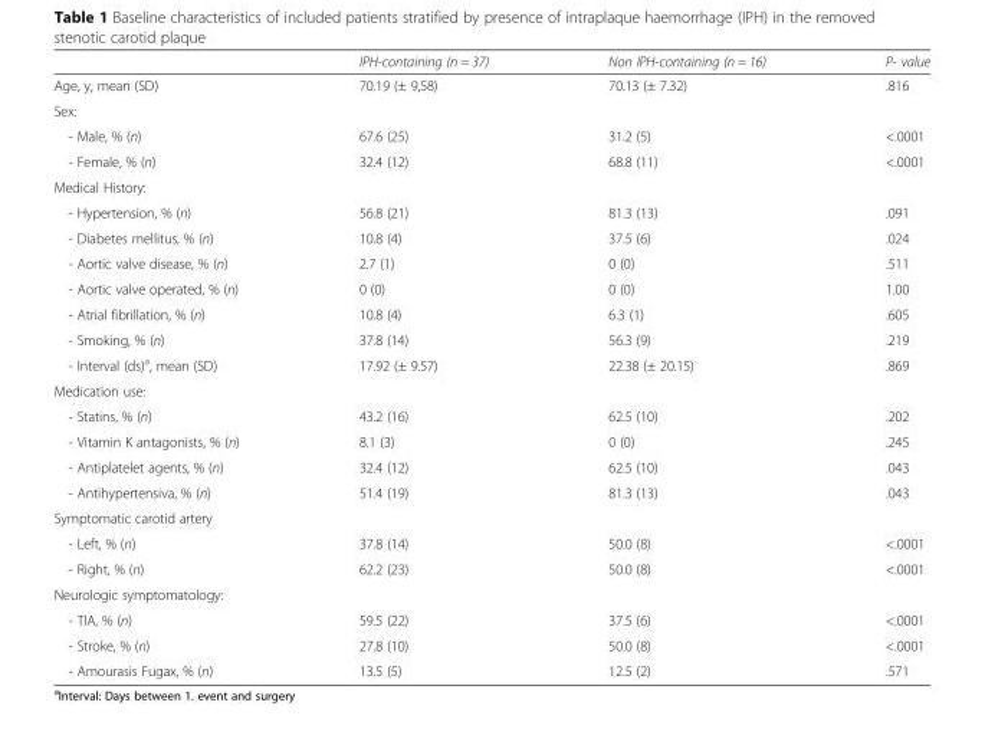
<table><thead><tr><td></td><td>IPH-containing (n = 37)</td><td>Non IPH-containing (n = 16)</td><td>P- value</td></tr></thead><tbody><tr><td>Age, y, mean (SD)</td><td>70.19 (± 9,58)</td><td>70.13 (± 7.32)</td><td>.816</td></tr><tr><td colspan="4">Sex:</td></tr><tr><td>- Male, % (n)</td><td>67.6 (25)</td><td>31.2 (5)</td><td>&lt;.0001</td></tr><tr><td>- Female, % (n)</td><td>32.4 (12)</td><td>68.8 (11)</td><td>&lt;.0001</td></tr><tr><td colspan="4">Medical History:</td></tr><tr><td>- Hypertension, % (n)</td><td>56.8 (21)</td><td>81.3 (13)</td><td>.091</td></tr><tr><td>- Diabetes mellitus, % (n)</td><td>10.8 (4)</td><td>37.5 (6)</td><td>.024</td></tr><tr><td>- Aortic valve disease, % (n)</td><td>2.7 (1)</td><td>0 (0)</td><td>.511</td></tr><tr><td>- Aortic valve operated, % (n)</td><td>0 (0)</td><td>0 (0)</td><td>1.00</td></tr><tr><td>- Atrial fibrillation, % (n)</td><td>10.8 (4)</td><td>6.3 (1)</td><td>.605</td></tr><tr><td>- Smoking, % (n)</td><td>37.8 (14)</td><td>56.3 (9)</td><td>.219</td></tr><tr><td>- Interval (ds)<sup>a</sup>, mean (SD)</td><td>17.92 (± 9.57)</td><td>22.38 (± 20.15)</td><td>.869</td></tr><tr><td colspan="4">Medication use:</td></tr><tr><td>- Statins, % (n)</td><td>43.2 (16)</td><td>62.5 (10)</td><td>.202</td></tr><tr><td>- Vitamin K antagonists, % (n)</td><td>8.1 (3)</td><td>0 (0)</td><td>.245</td></tr><tr><td>- Antiplatelet agents, % (n)</td><td>32.4 (12)</td><td>62.5 (10)</td><td>.043</td></tr><tr><td>- Antihypertensiva, % (n)</td><td>51.4 (19)</td><td>81.3 (13)</td><td>.043</td></tr><tr><td colspan="4">Symptomatic carotid artery</td></tr><tr><td>- Left, % (n)</td><td>37.8 (14)</td><td>50.0 (8)</td><td>&lt;.0001</td></tr><tr><td>- Right, % (n)</td><td>62.2 (23)</td><td>50.0 (8)</td><td>&lt;.0001</td></tr><tr><td colspan="4">Neurologic symptomatology:</td></tr><tr><td>- TIA, % (n)</td><td>59.5 (22)</td><td>37.5 (6)</td><td>&lt;.0001</td></tr><tr><td>- Stroke, % (n)</td><td>27.8 (10)</td><td>50.0 (8)</td><td>&lt;.0001</td></tr><tr><td>- Amourasis Fugax, % (n)</td><td>13.5 (5)</td><td>12.5 (2)</td><td>.571</td></tr></tbody></table>